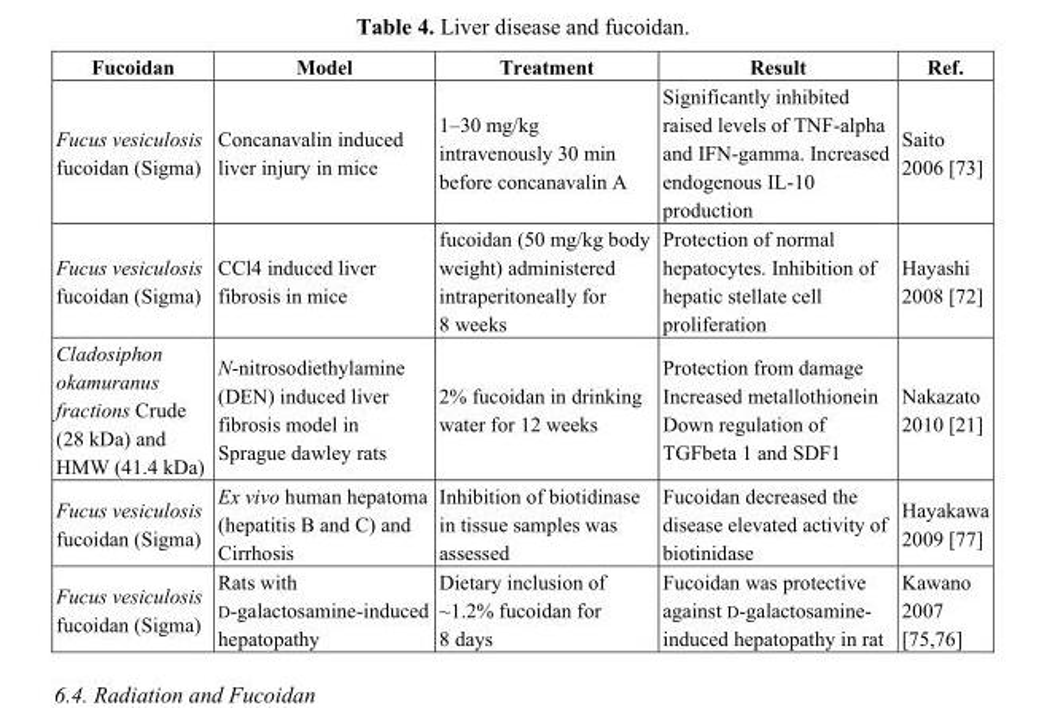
<table><thead><tr><td>Fucoidan</td><td>Model</td><td>Treatment</td><td>Result</td><td>Ref.</td></tr></thead><tbody><tr><td>Fucus vesiculosis fucoidan (Sigma)</td><td>Concanavalin induced liver injury in mice</td><td>1–30 mg/kg intravenously 30 min before concanavalin A</td><td>Significantly inhibited raised levels of TNF-alpha and IFN-gamma. Increased endogenous IL-10 production</td><td>Saito 2006 [73]</td></tr><tr><td>Fucus vesiculosis fucoidan (Sigma)</td><td>CCl4 induced liver fibrosis in mice</td><td>fucoidan (50 mg/kg body weight) administered intraperitoneally for 8 weeks</td><td>Protection of normal hepatocytes. Inhibition of hepatic stellate cell proliferation</td><td>Hayashi 2008 [72]</td></tr><tr><td>Cladosiphon okamuranus fractions Crude (28 kDa) and HMW (41.4 kDa)</td><td>N-nitrosodiethylamine (DEN) induced liver fibrosis model in Sprague dawley rats</td><td>2% fucoidan in drinking water for 12 weeks</td><td>Protection from damage Increased metallothionein Down regulation of TGFbeta 1 and SDF1</td><td>Nakazato 2010 [21]</td></tr><tr><td>Fucus vesiculosis fucoidan (Sigma)</td><td>Ex vivo human hepatoma (hepatitis B and C) and Cirrhosis</td><td>Inhibition of biotidinase in tissue samples was assessed</td><td>Fucoidan decreased the disease elevated activity of biotinidase</td><td>Hayakawa 2009 [77]</td></tr><tr><td>Fucus vesiculosis fucoidan (Sigma)</td><td>Rats with D-galactosamine-induced hepatopathy</td><td>Dietary inclusion of ~1.2% fucoidan for 8 days</td><td>Fucoidan was protective against D-galactosamine- induced hepatopathy in rat</td><td>Kawano 2007 [75,76]</td></tr></tbody></table>